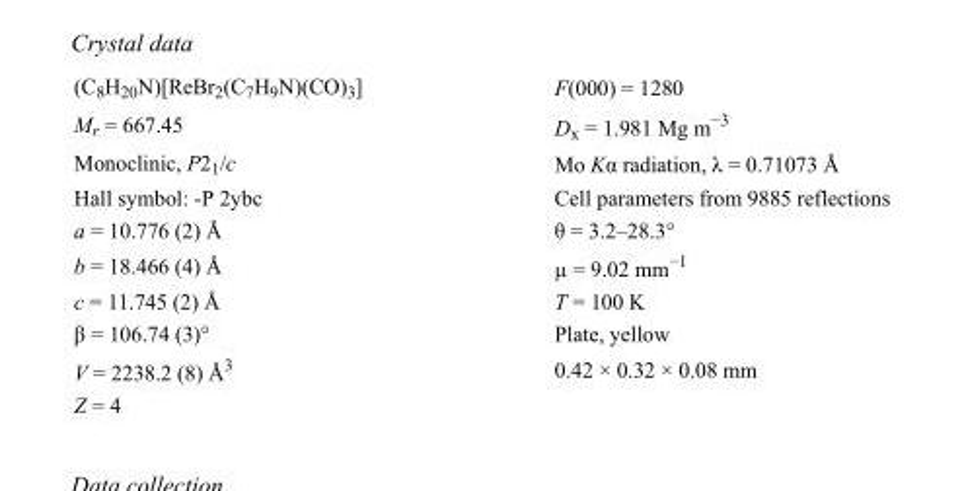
<table><tbody><tr><td>(C<sub>8</sub>H<sub>20</sub>N)[ReBr<sub>2</sub>(C<sub>7</sub>H<sub>9</sub>N)(CO)<sub>3</sub>]</td><td>F(000) = 1280</td></tr><tr><td>M<sub>r</sub> = 667.45</td><td>D<sub>x</sub> = 1.981 Mg m<sup>−3</sup></td></tr><tr><td>Monoclinic, P2<sub>1</sub>/c</td><td>Mo Kα radiation, λ = 0.71073 Å</td></tr><tr><td>Hall symbol: -P 2ybc</td><td>Cell parameters from 9885 reflections</td></tr><tr><td>a = 10.776 (2) Å</td><td>θ = 3.2–28.3°</td></tr><tr><td>b = 18.466 (4) Å</td><td>µ = 9.02 mm<sup>−1</sup></td></tr><tr><td>c = 11.745 (2) Å</td><td>T = 100 K</td></tr><tr><td>β = 106.74 (3)°</td><td>Plate, yellow</td></tr><tr><td>V = 2238.2 (8) Å<sup>3</sup></td><td>0.42 × 0.32 × 0.08 mm</td></tr><tr><td>Z = 4</td><td></td></tr></tbody></table>